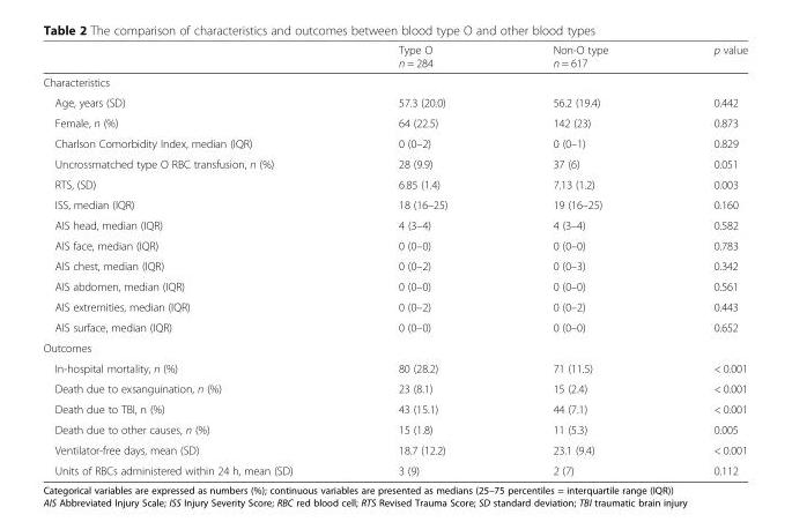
<table><thead><tr><td></td><td>Type O n = 284</td><td>Non-O type n = 617</td><td>p value</td></tr></thead><tbody><tr><td colspan="4">Characteristics</td></tr><tr><td>Age, years (SD)</td><td>57.3 (20.0)</td><td>56.2 (19.4)</td><td>0.442</td></tr><tr><td>Female, n (%)</td><td>64 (22.5)</td><td>142 (23)</td><td>0.873</td></tr><tr><td>Charlson Comorbidity Index, median (IQR)</td><td>0 (0–2)</td><td>0 (0–1)</td><td>0.829</td></tr><tr><td>Uncrossmatched type O RBC transfusion, n (%)</td><td>28 (9.9)</td><td>37 (6)</td><td>0.051</td></tr><tr><td>RTS, (SD)</td><td>6.85 (1.4)</td><td>7.13 (1.2)</td><td>0.003</td></tr><tr><td>ISS, median (IQR)</td><td>18 (16–25)</td><td>19 (16–25)</td><td>0.160</td></tr><tr><td>AIS head, median (IQR)</td><td>4 (3–4)</td><td>4 (3–4)</td><td>0.582</td></tr><tr><td>AIS face, median (IQR)</td><td>0 (0–0)</td><td>0 (0–0)</td><td>0.783</td></tr><tr><td>AIS chest, median (IQR)</td><td>0 (0–2)</td><td>0 (0–3)</td><td>0.342</td></tr><tr><td>AIS abdomen, median (IQR)</td><td>0 (0–0)</td><td>0 (0–0)</td><td>0.561</td></tr><tr><td>AIS extremities, median (IQR)</td><td>0 (0–2)</td><td>0 (0–2)</td><td>0.443</td></tr><tr><td>AIS surface, median (IQR)</td><td>0 (0–0)</td><td>0 (0–0)</td><td>0.652</td></tr><tr><td colspan="4">Outcomes</td></tr><tr><td>In-hospital mortality, n (%)</td><td>80 (28.2)</td><td>71 (11.5)</td><td>&lt; 0.001</td></tr><tr><td>Death due to exsanguination, n (%)</td><td>23 (8.1)</td><td>15 (2.4)</td><td>&lt; 0.001</td></tr><tr><td>Death due to TBI, n (%)</td><td>43 (15.1)</td><td>44 (7.1)</td><td>&lt; 0.001</td></tr><tr><td>Death due to other causes, n (%)</td><td>15 (1.8)</td><td>11 (5.3)</td><td>0.005</td></tr><tr><td>Ventilator-free days, mean (SD)</td><td>18.7 (12.2)</td><td>23.1 (9.4)</td><td>&lt; 0.001</td></tr><tr><td>Units of RBCs administered within 24 h, mean (SD)</td><td>3 (9)</td><td>2 (7)</td><td>0.112</td></tr></tbody></table>